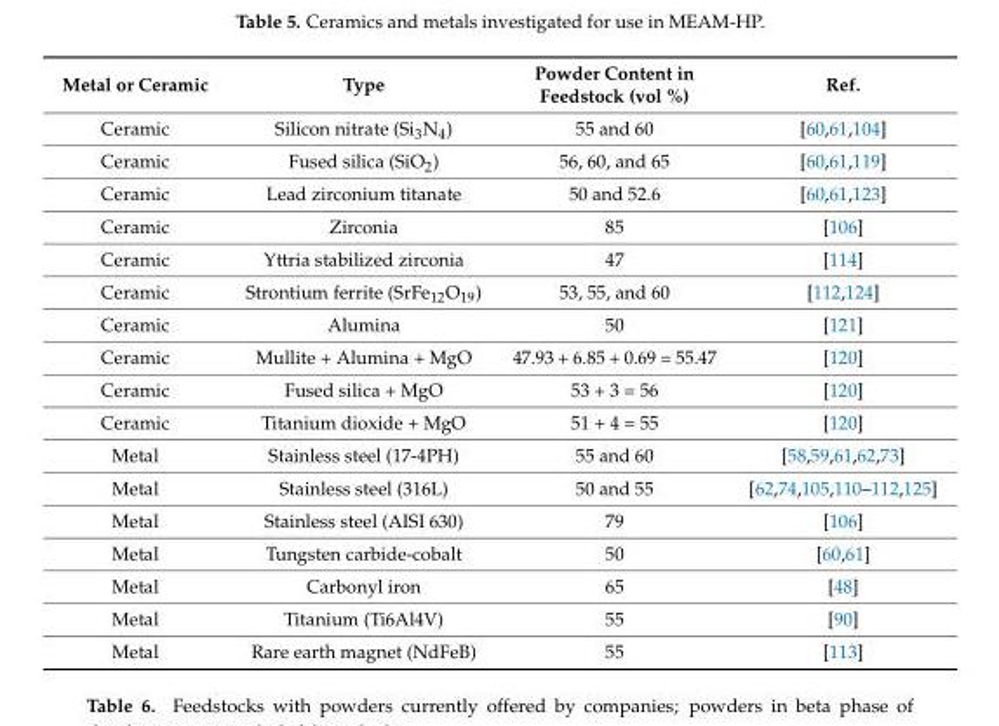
<table><thead><tr><td>Metal or Ceramic</td><td>Type</td><td>Powder Content in Feedstock (vol %)</td><td>Ref.</td></tr></thead><tbody><tr><td>Ceramic</td><td>Silicon nitrate (Si<sub>3</sub>N<sub>4</sub>)</td><td>55 and 60</td><td>[60,61,104]</td></tr><tr><td>Ceramic</td><td>Fused silica (SiO<sub>2</sub>)</td><td>56, 60, and 65</td><td>[60,61,119]</td></tr><tr><td>Ceramic</td><td>Lead zirconium titanate</td><td>50 and 52.6</td><td>[60,61,123]</td></tr><tr><td>Ceramic</td><td>Zirconia</td><td>85</td><td>[106]</td></tr><tr><td>Ceramic</td><td>Yttria stabilized zirconia</td><td>47</td><td>[114]</td></tr><tr><td>Ceramic</td><td>Strontium ferrite (SrFe<sub>12</sub>O<sub>19</sub>)</td><td>53, 55, and 60</td><td>[112,124]</td></tr><tr><td>Ceramic</td><td>Alumina</td><td>50</td><td>[121]</td></tr><tr><td>Ceramic</td><td>Mullite + Alumina + MgO</td><td>47.93 + 6.85 + 0.69 = 55.47</td><td>[120]</td></tr><tr><td>Ceramic</td><td>Fused silica + MgO</td><td>53 + 3 = 56</td><td>[120]</td></tr><tr><td>Ceramic</td><td>Titanium dioxide + MgO</td><td>51 + 4 = 55</td><td>[120]</td></tr><tr><td>Metal</td><td>Stainless steel (17-4PH)</td><td>55 and 60</td><td>[58,59,61,62,73]</td></tr><tr><td>Metal</td><td>Stainless steel (316L)</td><td>50 and 55</td><td>[62,74,105,110–112,125]</td></tr><tr><td>Metal</td><td>Stainless steel (AISI 630)</td><td>79</td><td>[106]</td></tr><tr><td>Metal</td><td>Tungsten carbide-cobalt</td><td>50</td><td>[60,61]</td></tr><tr><td>Metal</td><td>Carbonyl iron</td><td>65</td><td>[48]</td></tr><tr><td>Metal</td><td>Titanium (Ti6Al4V)</td><td>55</td><td>[90]</td></tr><tr><td>Metal</td><td>Rare earth magnet (NdFeB)</td><td>55</td><td>[113]</td></tr></tbody></table>